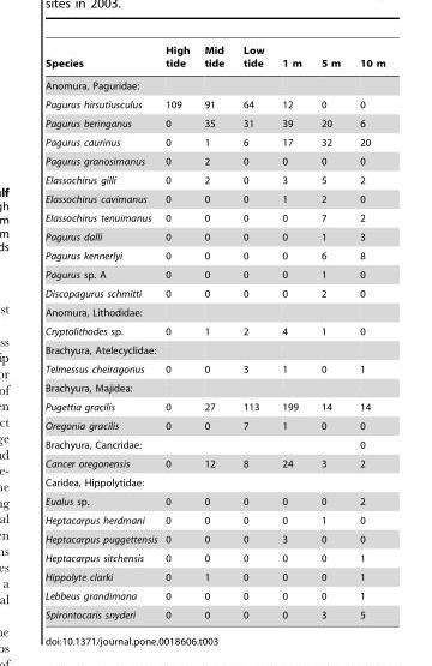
<table><thead><tr><td>Species</td><td>High tide</td><td>Mid tide</td><td>Low tide</td><td>1 m</td><td>5 m</td><td>10 m</td></tr></thead><tbody><tr><td colspan="7">Anomura, Paguridae:</td></tr><tr><td>Pagurus hirsutiusculus</td><td>109</td><td>91</td><td>64</td><td>12</td><td>0</td><td>0</td></tr><tr><td>Pagurus beringanus</td><td>0</td><td>35</td><td>31</td><td>39</td><td>20</td><td>6</td></tr><tr><td>Pagurus caurinus</td><td>0</td><td>1</td><td>6</td><td>17</td><td>32</td><td>20</td></tr><tr><td>Pagurus granosimanus</td><td>0</td><td>2</td><td>0</td><td>0</td><td>0</td><td>0</td></tr><tr><td>Elassochirus gilli</td><td>0</td><td>2</td><td>0</td><td>3</td><td>5</td><td>2</td></tr><tr><td>Elassochirus cavimanus</td><td>0</td><td>0</td><td>0</td><td>1</td><td>2</td><td>0</td></tr><tr><td>Elassochirus tenuimanus</td><td>0</td><td>0</td><td>0</td><td>0</td><td>7</td><td>2</td></tr><tr><td>Pagurus dalli</td><td>0</td><td>0</td><td>0</td><td>0</td><td>1</td><td>3</td></tr><tr><td>Pagurus kennerlyi</td><td>0</td><td>0</td><td>0</td><td>0</td><td>6</td><td>8</td></tr><tr><td>Pagurus sp. A</td><td>0</td><td>0</td><td>0</td><td>0</td><td>1</td><td>0</td></tr><tr><td>Discopagurus schmitti</td><td>0</td><td>0</td><td>0</td><td>0</td><td>2</td><td>0</td></tr><tr><td colspan="7">Anomura, Lithodidae:</td></tr><tr><td>Cryptolithodes sp.</td><td>0</td><td>1</td><td>2</td><td>4</td><td>1</td><td>0</td></tr><tr><td colspan="7">Brachyura, Atelecyclidae:</td></tr><tr><td>Telmessus cheiragonus</td><td>0</td><td>0</td><td>3</td><td>1</td><td>0</td><td>1</td></tr><tr><td colspan="7">Brachyura, Majidea:</td></tr><tr><td>Pugettia gracilis</td><td>0</td><td>27</td><td>113</td><td>199</td><td>14</td><td>14</td></tr><tr><td>Oregonia gracilis</td><td>0</td><td>0</td><td>7</td><td>1</td><td>0</td><td>0</td></tr><tr><td>Brachyura, Cancridae:</td><td></td><td></td><td></td><td></td><td></td><td>0</td></tr><tr><td>Cancer oregonensis</td><td>0</td><td>12</td><td>8</td><td>24</td><td>3</td><td>2</td></tr><tr><td colspan="7">Caridea, Hippolytidae:</td></tr><tr><td>Eualus sp.</td><td>0</td><td>0</td><td>0</td><td>0</td><td>0</td><td>2</td></tr><tr><td>Heptacarpus herdmani</td><td>0</td><td>0</td><td>0</td><td>0</td><td>1</td><td>0</td></tr><tr><td>Heptacarpus puggettensis</td><td>0</td><td>0</td><td>0</td><td>3</td><td>0</td><td>0</td></tr><tr><td>Heptacarpus sitchensis</td><td>0</td><td>0</td><td>0</td><td>0</td><td>0</td><td>1</td></tr><tr><td>Hippolyte clarki</td><td>0</td><td>1</td><td>0</td><td>0</td><td>0</td><td>1</td></tr><tr><td>Lebbeus grandimana</td><td>0</td><td>0</td><td>0</td><td>0</td><td>0</td><td>1</td></tr><tr><td>Spirontocaris snyderi</td><td>0</td><td>0</td><td>0</td><td>0</td><td>3</td><td>5</td></tr></tbody></table>